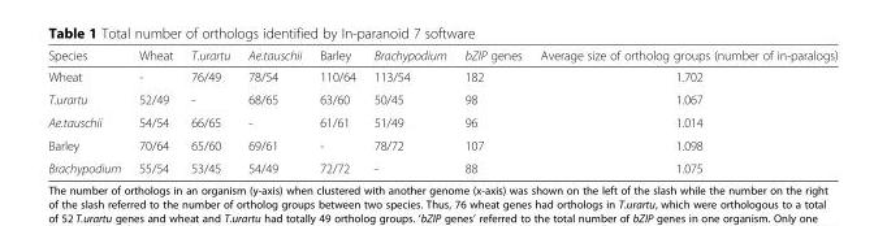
<table><thead><tr><td>Species</td><td>Wheat</td><td>T.urartu</td><td>Ae.tauschii</td><td>Barley</td><td>Brachypodium</td><td>bZIP genes</td><td>Average size of ortholog groups (number of in-paralogs)</td></tr></thead><tbody><tr><td>Wheat</td><td>-</td><td>76/49</td><td>78/54</td><td>110/64</td><td>113/54</td><td>182</td><td>1.702</td></tr><tr><td>T.urartu</td><td>52/49</td><td>-</td><td>68/65</td><td>63/60</td><td>50/45</td><td>98</td><td>1.067</td></tr><tr><td>Ae.tauschii</td><td>54/54</td><td>66/65</td><td>-</td><td>61/61</td><td>51/49</td><td>96</td><td>1.014</td></tr><tr><td>Barley</td><td>70/64</td><td>65/60</td><td>69/61</td><td>-</td><td>78/72</td><td>107</td><td>1.098</td></tr><tr><td>Brachypodium</td><td>55/54</td><td>53/45</td><td>54/49</td><td>72/72</td><td>-</td><td>88</td><td>1.075</td></tr></tbody></table>